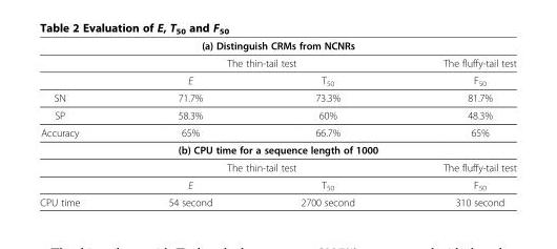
<table><tbody><tr><td colspan="4">(a) Distinguish CRMs from NCNRs</td></tr><tr><td></td><td colspan="2">The thin-tail test</td><td>The fluffy-tail test</td></tr><tr><td></td><td>E</td><td>T<sub>50</sub></td><td>F<sub>50</sub></td></tr><tr><td>SN</td><td>71.7%</td><td>73.3%</td><td>81.7%</td></tr><tr><td>SP</td><td>58.3%</td><td>60%</td><td>48.3%</td></tr><tr><td>Accuracy</td><td>65%</td><td>66.7%</td><td>65%</td></tr><tr><td colspan="4">(b) CPU time for a sequence length of 1000</td></tr><tr><td></td><td colspan="2">The thin-tail test</td><td>The fluffy-tail test</td></tr><tr><td></td><td>E</td><td>T<sub>50</sub></td><td>F<sub>50</sub></td></tr><tr><td>CPU time</td><td>54 second</td><td>2700 second</td><td>310 second</td></tr></tbody></table>